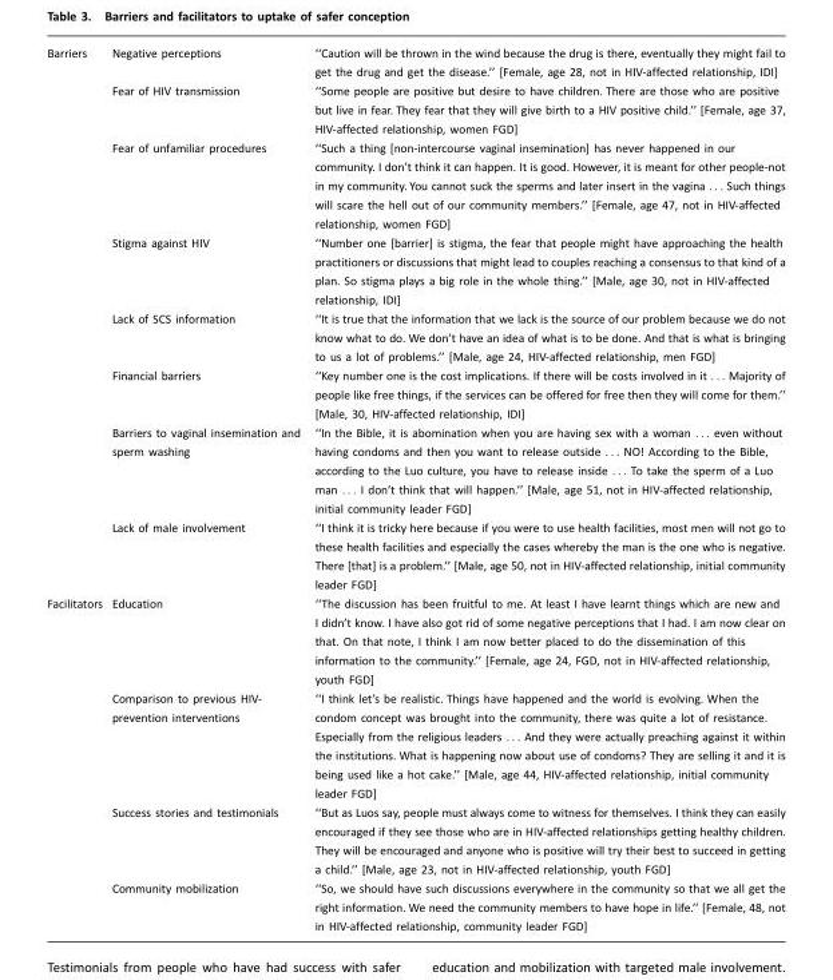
<table><tbody><tr><td rowspan="8">Barriers</td><td>Negative perceptions</td><td>‘‘Caution will be thrown in the wind because the drug is there, eventually they might fail to get the drug and get the disease.’’ [Female, age 28, not in HIV-affected relationship, IDI]</td></tr><tr><td>Fear of HIV transmission</td><td>‘‘Some people are positive but desire to have children. There are those who are positive but live in fear. They fear that they will give birth to a HIV positive child.’’ [Female, age 37, HIV-affected relationship, women FGD]</td></tr><tr><td>Fear of unfamiliar procedures</td><td>‘‘Such a thing [non-intercourse vaginal insemination] has never happened in our community. I don’t think it can happen. It is good. However, it is meant for other people-not in my community. You cannot suck the sperms and later insert in the vagina . . . Such things will scare the hell out of our community members.’’ [Female, age 47, not in HIV-affected relationship, women FGD]</td></tr><tr><td>Stigma against HIV</td><td>‘‘Number one [barrier] is stigma, the fear that people might have approaching the health practitioners or discussions that might lead to couples reaching a consensus to that kind of a plan. So stigma plays a big role in the whole thing.’’ [Male, age 30, not in HIV-affected relationship, IDI]</td></tr><tr><td>Lack of SCS information</td><td>‘‘It is true that the information that we lack is the source of our problem because we do not know what to do. We don’t have an idea of what is to be done. And that is what is bringing to us a lot of problems.’’ [Male, age 24, HIV-affected relationship, men FGD]</td></tr><tr><td>Financial barriers</td><td>‘‘Key number one is the cost implications. If there will be costs involved in it . . . Majority of people like free things, if the services can be offered for free then they will come for them.’’ [Male, 30, HIV-affected relationship, IDI]</td></tr><tr><td>Barriers to vaginal insemination and sperm washing</td><td>‘‘In the Bible, it is abomination when you are having sex with a woman . . . even without having condoms and then you want to release outside . . . NO! According to the Bible, according to the Luo culture, you have to release inside . . . To take the sperm of a Luo man . . . I don’t think that will happen.’’ [Male, age 51, not in HIV-affected relationship, initial community leader FGD]</td></tr><tr><td>Lack of male involvement</td><td>‘‘I think it is tricky here because if you were to use health facilities, most men will not go to these health facilities and especially the cases whereby the man is the one who is negative. There [that] is a problem.’’ [Male, age 50, not in HIV-affected relationship, initial community leader FGD]</td></tr><tr><td rowspan="4">Facilitators</td><td>Education</td><td>‘‘The discussion has been fruitful to me. At least I have learnt things which are new and I didn’t know. I have also got rid of some negative perceptions that I had. I am now clear on that. On that note, I think I am now better placed to do the dissemination of this information to the community.’’ [Female, age 24, FGD, not in HIV-affected relationship, youth FGD]</td></tr><tr><td>Comparison to previous HIV- prevention interventions</td><td>‘‘I think let’s be realistic. Things have happened and the world is evolving. When the condom concept was brought into the community, there was quite a lot of resistance. Especially from the religious leaders . . . And they were actually preaching against it within the institutions. What is happening now about use of condoms? They are selling it and it is being used like a hot cake.’’ [Male, age 44, HIV-affected relationship, initial community leader FGD]</td></tr><tr><td>Success stories and testimonials</td><td>‘‘But as Luos say, people must always come to witness for themselves. I think they can easily encouraged if they see those who are in HIV-affected relationships getting healthy children. They will be encouraged and anyone who is positive will try their best to succeed in getting a child.’’ [Male, age 23, not in HIV-affected relationship, youth FGD]</td></tr><tr><td>Community mobilization</td><td>‘‘So, we should have such discussions everywhere in the community so that we all get the right information. We need the community members to have hope in life.’’ [Female, 48, not in HIV-affected relationship, community leader FGD]</td></tr></tbody></table>